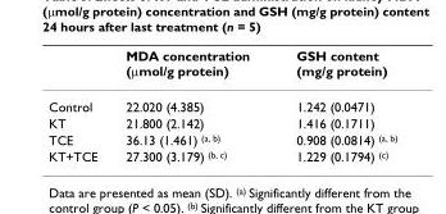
<table><thead><tr><td></td><td>MDA concentration (μmol/g protein)</td><td>GSH content (mg/g protein)</td></tr></thead><tbody><tr><td>Control</td><td>22.020 (4.385)</td><td>1.242 (0.0471)</td></tr><tr><td>KT</td><td>21.800 (2.142)</td><td>1.416 (0.1711)</td></tr><tr><td>TCE</td><td>36.13 (1.461) <sup>(a, b)</sup></td><td>0.908 (0.0814) <sup>(a, b)</sup></td></tr><tr><td>KT+TCE</td><td>27.300 (3.179) <sup>(b, c)</sup></td><td>1.229 (0.1794) <sup>(c)</sup></td></tr></tbody></table>